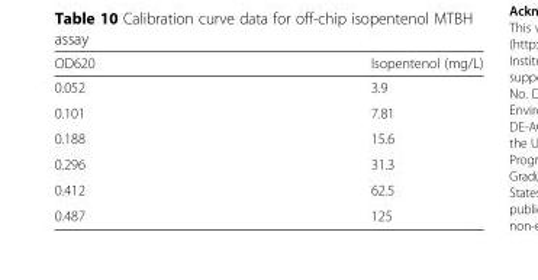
<table><thead><tr><td>OD620</td><td>Isopentenol (mg/L)</td></tr></thead><tbody><tr><td>0.052</td><td>3.9</td></tr><tr><td>0.101</td><td>7.81</td></tr><tr><td>0.188</td><td>15.6</td></tr><tr><td>0.296</td><td>31.3</td></tr><tr><td>0.412</td><td>62.5</td></tr><tr><td>0.487</td><td>125</td></tr></tbody></table>